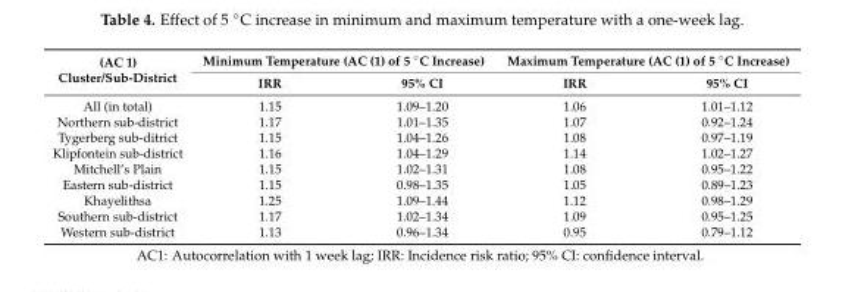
<table><thead><tr><td rowspan="2">(AC 1) Cluster/Sub-District</td><td colspan="2">Minimum Temperature (AC (1) of 5 ◦C Increase)</td><td colspan="2">Maximum Temperature (AC (1) of 5 ◦C Increase)</td></tr><tr><td>IRR</td><td>95% CI</td><td>IRR</td><td>95% CI</td></tr></thead><tbody><tr><td>All (in total)</td><td>1.15</td><td>1.09–1.20</td><td>1.06</td><td>1.01–1.12</td></tr><tr><td>Northern sub-district</td><td>1.17</td><td>1.01–1.35</td><td>1.07</td><td>0.92–1.24</td></tr><tr><td>Tygerberg sub-ditrict</td><td>1.15</td><td>1.04–1.26</td><td>1.08</td><td>0.97–1.19</td></tr><tr><td>Klipfontein sub-district</td><td>1.16</td><td>1.04–1.29</td><td>1.14</td><td>1.02–1.27</td></tr><tr><td>Mitchell’s Plain</td><td>1.15</td><td>1.02–1.31</td><td>1.08</td><td>0.95–1.22</td></tr><tr><td>Eastern sub-district</td><td>1.15</td><td>0.98–1.35</td><td>1.05</td><td>0.89–1.23</td></tr><tr><td>Khayelithsa</td><td>1.25</td><td>1.09–1.44</td><td>1.12</td><td>0.98–1.29</td></tr><tr><td>Southern sub-district</td><td>1.17</td><td>1.02–1.34</td><td>1.09</td><td>0.95–1.25</td></tr><tr><td>Western sub-district</td><td>1.13</td><td>0.96–1.34</td><td>0.95</td><td>0.79–1.12</td></tr></tbody></table>